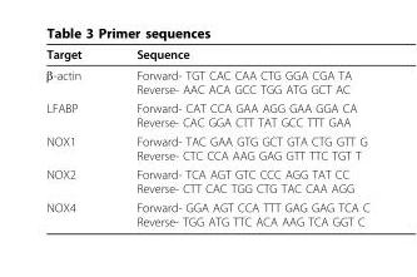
<table><thead><tr><td>Target</td><td>Sequence</td></tr></thead><tbody><tr><td>β-actin</td><td>Forward- TGT CAC CAA CTG GGA CGA TA Reverse- AAC ACA GCC TGG ATG GCT AC</td></tr><tr><td>LFABP</td><td>Forward- CAT CCA GAA AGG GAA GGA CA Reverse- CAC GGA CTT TAT GCC TTT GAA</td></tr><tr><td>NOX1</td><td>Forward- TAC GAA GTG GCT GTA CTG GTT G Reverse- CTC CCA AAG GAG GTT TTC TGT T</td></tr><tr><td>NOX2</td><td>Forward- TCA AGT GTC CCC AGG TAT CC Reverse- CTT CAC TGG CTG TAC CAA AGG</td></tr><tr><td>NOX4</td><td>Forward- GGA AGT CCA TTT GAG GAG TCA C Reverse- TGG ATG TTC ACA AAG TCA GGT C</td></tr></tbody></table>